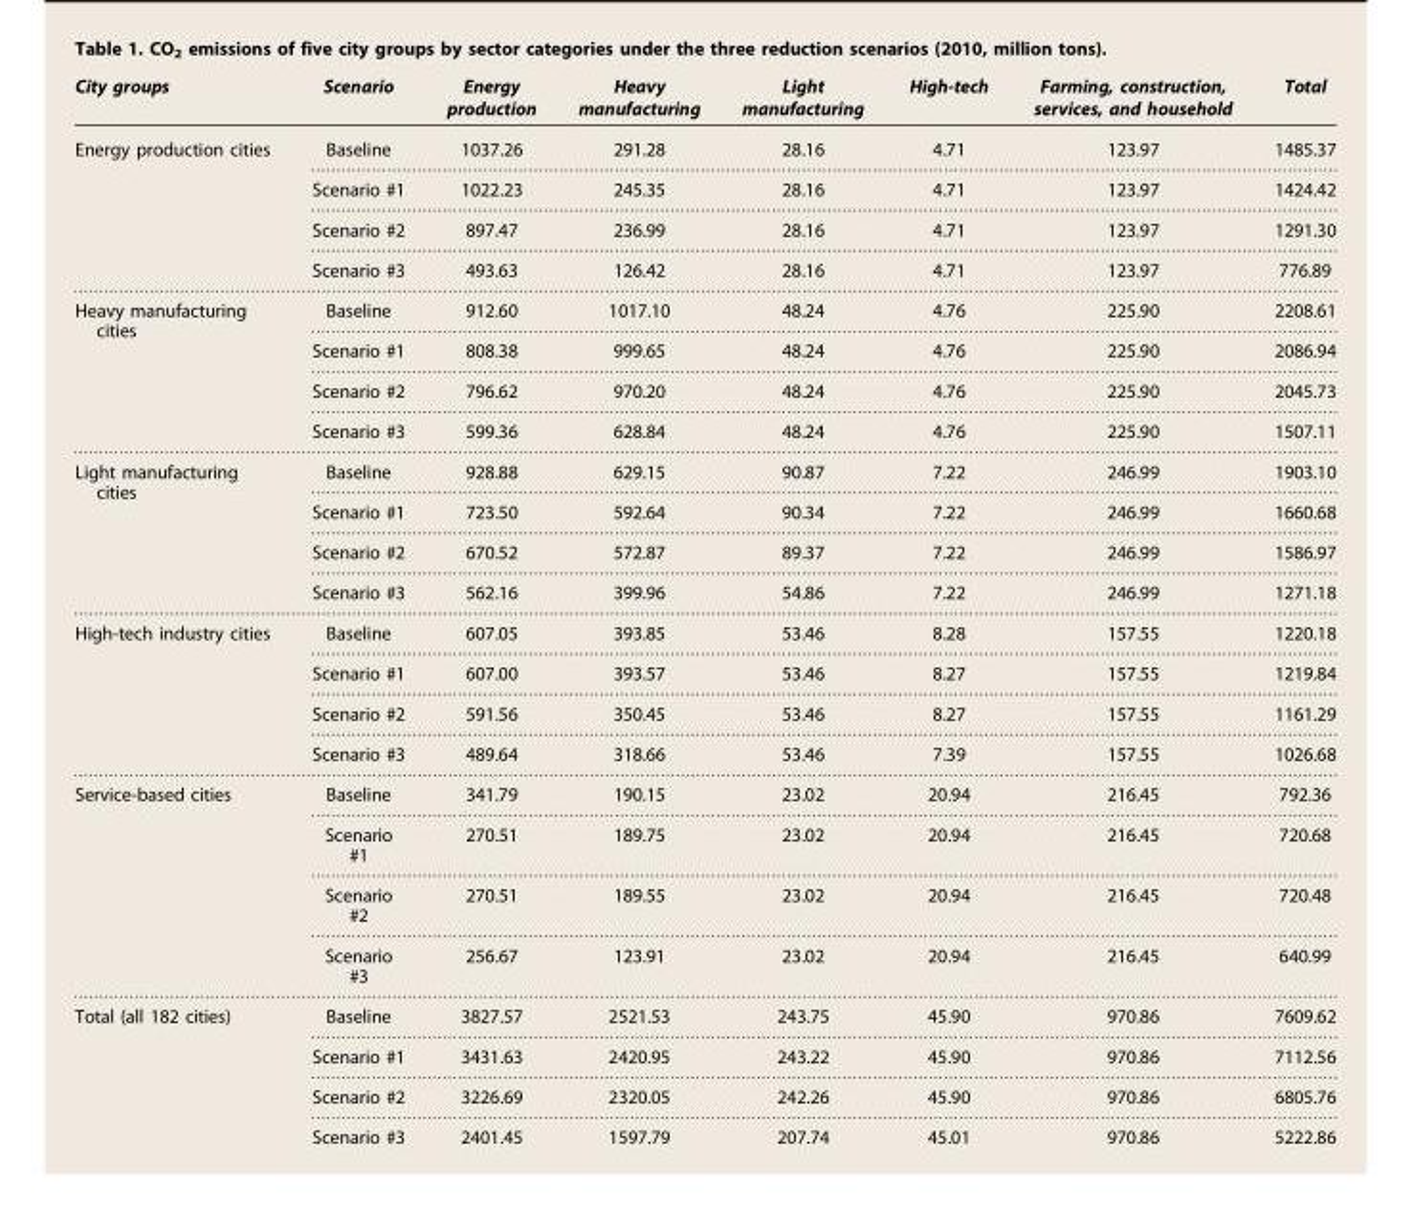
<table><thead><tr><td>City groups</td><td>Scenario</td><td>Energy production</td><td>Heavy manufacturing</td><td>Light manufacturing</td><td>High-tech</td><td>Farming, construction, services, and household</td><td>Total</td></tr></thead><tbody><tr><td rowspan="4">Energy production cities</td><td>Baseline</td><td>1037.26</td><td>291.28</td><td>28.16</td><td>4.71</td><td>123.97</td><td>1485.37</td></tr><tr><td>Scenario #1</td><td>1022.23</td><td>245.35</td><td>28.16</td><td>4.71</td><td>123.97</td><td>1424.42</td></tr><tr><td>Scenario #2</td><td>897.47</td><td>236.99</td><td>28.16</td><td>4.71</td><td>123.97</td><td>1291.30</td></tr><tr><td>Scenario #3</td><td>493.63</td><td>126.42</td><td>28.16</td><td>4.71</td><td>123.97</td><td>776.89</td></tr><tr><td rowspan="4">Heavy manufacturing cities</td><td>Baseline</td><td>912.60</td><td>1017.10</td><td>48.24</td><td>4.76</td><td>225.90</td><td>2208.61</td></tr><tr><td>Scenario #1</td><td>808.38</td><td>999.65</td><td>48.24</td><td>4.76</td><td>225.90</td><td>2086.94</td></tr><tr><td>Scenario #2</td><td>796.62</td><td>970.20</td><td>48.24</td><td>4.76</td><td>225.90</td><td>2045.73</td></tr><tr><td>Scenario #3</td><td>599.36</td><td>628.84</td><td>48.24</td><td>4.76</td><td>225.90</td><td>1507.11</td></tr><tr><td rowspan="4">Light manufacturing cities</td><td>Baseline</td><td>928.88</td><td>629.15</td><td>90.87</td><td>7.22</td><td>246.99</td><td>1903.10</td></tr><tr><td>Scenario #1</td><td>723.50</td><td>592.64</td><td>90.34</td><td>7.22</td><td>246.99</td><td>1660.68</td></tr><tr><td>Scenario #2</td><td>670.52</td><td>572.87</td><td>89.37</td><td>7.22</td><td>246.99</td><td>1586.97</td></tr><tr><td>Scenario #3</td><td>562.16</td><td>399.96</td><td>54.86</td><td>7.22</td><td>246.99</td><td>1271.18</td></tr><tr><td rowspan="4">High-tech industry cities</td><td>Baseline</td><td>607.05</td><td>393.85</td><td>53.46</td><td>8.28</td><td>157.55</td><td>1220.18</td></tr><tr><td>Scenario #1</td><td>607.00</td><td>393.57</td><td>53.46</td><td>8.27</td><td>157.55</td><td>1219.84</td></tr><tr><td>Scenario #2</td><td>591.56</td><td>350.45</td><td>53.46</td><td>8.27</td><td>157.55</td><td>1161.29</td></tr><tr><td>Scenario #3</td><td>489.64</td><td>318.66</td><td>53.46</td><td>7.39</td><td>157.55</td><td>1026.68</td></tr><tr><td rowspan="4">Service-based cities</td><td>Baseline</td><td>341.79</td><td>190.15</td><td>23.02</td><td>20.94</td><td>216.45</td><td>792.36</td></tr><tr><td>Scenario #1</td><td>270.51</td><td>189.75</td><td>23.02</td><td>20.94</td><td>216.45</td><td>720.68</td></tr><tr><td>Scenario #2</td><td>270.51</td><td>189.55</td><td>23.02</td><td>20.94</td><td>216.45</td><td>720.48</td></tr><tr><td>Scenario #3</td><td>256.67</td><td>123.91</td><td>23.02</td><td>20.94</td><td>216.45</td><td>640.99</td></tr><tr><td rowspan="4">Total (all 182 cities)</td><td>Baseline</td><td>3827.57</td><td>2521.53</td><td>243.75</td><td>45.90</td><td>970.86</td><td>7609.62</td></tr><tr><td>Scenario #1</td><td>3431.63</td><td>2420.95</td><td>243.22</td><td>45.90</td><td>970.86</td><td>7112.56</td></tr><tr><td>Scenario #2</td><td>3226.69</td><td>2320.05</td><td>242.26</td><td>45.90</td><td>970.86</td><td>6805.76</td></tr><tr><td>Scenario #3</td><td>2401.45</td><td>1597.79</td><td>207.74</td><td>45.01</td><td>970.86</td><td>5222.86</td></tr></tbody></table>